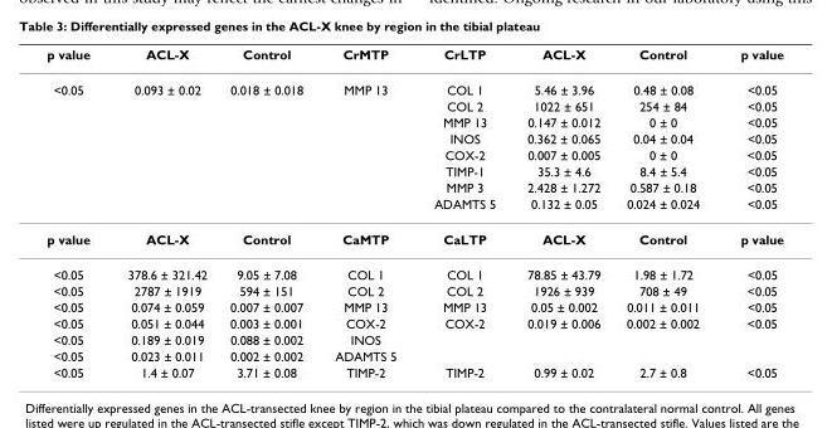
<table><thead><tr><td>p value</td><td>ACL-X</td><td>Control</td><td>CrMTP</td><td>CrLTP</td><td>ACL-X</td><td>Control</td><td>p value</td></tr></thead><tbody><tr><td rowspan="8">&lt;0.05</td><td>0.093 ± 0.02</td><td>0.018 ± 0.018</td><td>MMP 13</td><td>COL 1</td><td>5.46 ± 3.96</td><td>0.48 ± 0.08</td><td>&lt;0.05</td></tr><tr><td></td><td></td><td></td><td>COL 2</td><td>1022 ± 651</td><td>254 ± 84</td><td>&lt;0.05</td></tr><tr><td></td><td></td><td></td><td>MMP 13</td><td>0.147 ± 0.012</td><td>0 ± 0</td><td>&lt;0.05</td></tr><tr><td></td><td></td><td></td><td>INOS</td><td>0.362 ± 0.065</td><td>0.04 ± 0.04</td><td>&lt;0.05</td></tr><tr><td></td><td></td><td></td><td>COX-2</td><td>0.007 ± 0.005</td><td>0 ± 0</td><td>&lt;0.05</td></tr><tr><td></td><td></td><td></td><td>TIMP-1</td><td>35.3 ± 4.6</td><td>8.4 ± 5.4</td><td>&lt;0.05</td></tr><tr><td></td><td></td><td></td><td>MMP 3</td><td>2.428 ± 1.272</td><td>0.587 ± 0.18</td><td>&lt;0.05</td></tr><tr><td></td><td></td><td></td><td>ADAMTS 5</td><td>0.132 ± 0.05</td><td>0.024 ± 0.024</td><td>&lt;0.05</td></tr><tr><td>p value</td><td>ACL-X</td><td>Control</td><td>CaMTP</td><td>CaLTP</td><td>ACL-X</td><td>Control</td><td>p value</td></tr><tr><td>&lt;0.05</td><td>378.6 ± 321.42</td><td>9.05 ± 7.08</td><td>COL 1</td><td>COL 1</td><td>78.85 ± 43.79</td><td>1.98 ± 1.72</td><td>&lt;0.05</td></tr><tr><td>&lt;0.05</td><td>2787 ± 1919</td><td>594 ± 151</td><td>COL 2</td><td>COL 2</td><td>1926 ± 939</td><td>708 ± 49</td><td>&lt;0.05</td></tr><tr><td>&lt;0.05</td><td>0.074 ± 0.059</td><td>0.007 ± 0.007</td><td>MMP 13</td><td>MMP 13</td><td>0.05 ± 0.002</td><td>0.011 ± 0.011</td><td>&lt;0.05</td></tr><tr><td>&lt;0.05</td><td>0.051 ± 0.044</td><td>0.003 ± 0.001</td><td>COX-2</td><td>COX-2</td><td>0.019 ± 0.006</td><td>0.002 ± 0.002</td><td>&lt;0.05</td></tr><tr><td>&lt;0.05</td><td>0.189 ± 0.019</td><td>0.088 ± 0.002</td><td>INOS</td><td></td><td></td><td></td><td></td></tr><tr><td>&lt;0.05</td><td>0.023 ± 0.011</td><td>0.002 ± 0.002</td><td>ADAMTS 5</td><td></td><td></td><td></td><td></td></tr><tr><td>&lt;0.05</td><td>1.4 ± 0.07</td><td>3.71 ± 0.08</td><td>TIMP-2</td><td>TIMP-2</td><td>0.99 ± 0.02</td><td>2.7 ± 0.8</td><td>&lt;0.05</td></tr></tbody></table>